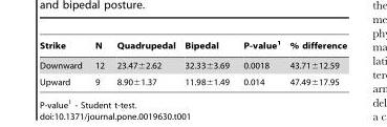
<table><thead><tr><td>Strike</td><td>N</td><td>Quadrupedal</td><td>Bipedal</td><td>P-value<sup>1</sup></td><td>% difference</td></tr></thead><tbody><tr><td>Downward</td><td>12</td><td>23.47±2.62</td><td>32.33±3.69</td><td>0.0018</td><td>43.71±12.59</td></tr><tr><td>Upward</td><td>9</td><td>8.90±1.37</td><td>11.98±1.49</td><td>0.014</td><td>47.49±17.95</td></tr></tbody></table>